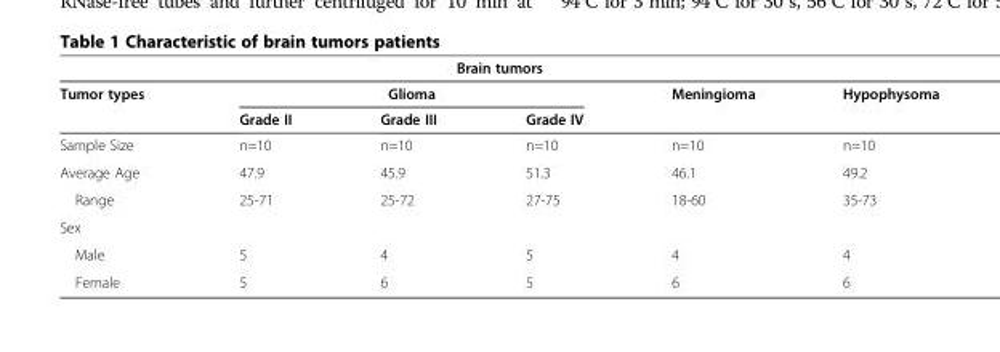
<table><thead><tr><td colspan="6">Brain tumors</td></tr><tr><td rowspan="2">Tumor types</td><td colspan="3">Glioma</td><td rowspan="2">Meningioma</td><td rowspan="2">Hypophysoma</td></tr><tr><td>Grade II</td><td>Grade III</td><td>Grade IV</td></tr></thead><tbody><tr><td>Sample Size</td><td>n=10</td><td>n=10</td><td>n=10</td><td>n=10</td><td>n=10</td></tr><tr><td>Average Age</td><td>47.9</td><td>45.9</td><td>51.3</td><td>46.1</td><td>49.2</td></tr><tr><td>Range</td><td>25-71</td><td>25-72</td><td>27-75</td><td>18-60</td><td>35-73</td></tr><tr><td colspan="6">Sex</td></tr><tr><td>Male</td><td>5</td><td>4</td><td>5</td><td>4</td><td>4</td></tr><tr><td>Female</td><td>5</td><td>6</td><td>5</td><td>6</td><td>6</td></tr></tbody></table>